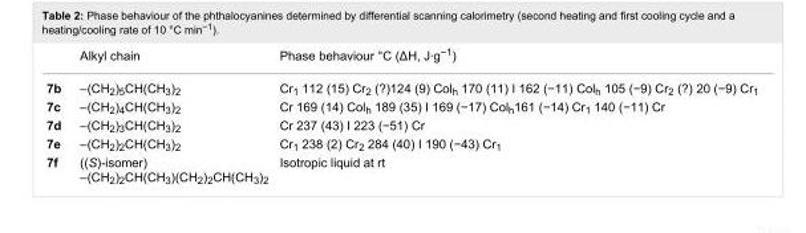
<table><thead><tr><td></td><td>Alkyl chain</td><td>Phase behaviour °C (ΔH, J·g<sup>−1</sup>)</td></tr></thead><tbody><tr><td>7b</td><td>–(CH<sub>2</sub>)<sub>5</sub>CH(CH<sub>3</sub>)<sub>2</sub></td><td>Cr<sub>1</sub> 112 (15) Cr<sub>2</sub> (?)124 (9) Col<sub>h</sub> 170 (11) I 162 (−11) Col<sub>h</sub> 105 (−9) Cr<sub>2</sub> (?) 20 (−9) Cr<sub>1</sub></td></tr><tr><td>7c</td><td>–(CH<sub>2</sub>)<sub>4</sub>CH(CH<sub>3</sub>)<sub>2</sub></td><td>Cr 169 (14) Col<sub>h</sub> 189 (35) I 169 (−17) Col<sub>h</sub>161 (−14) Cr<sub>1</sub> 140 (−11) Cr</td></tr><tr><td>7d</td><td>–(CH<sub>2</sub>)<sub>3</sub>CH(CH<sub>3</sub>)<sub>2</sub></td><td>Cr 237 (43) I 223 (−51) Cr</td></tr><tr><td>7e</td><td>–(CH<sub>2</sub>)<sub>2</sub>CH(CH<sub>3</sub>)<sub>2</sub></td><td>Cr<sub>1</sub> 238 (2) Cr<sub>2</sub> 284 (40) I 190 (−43) Cr<sub>1</sub></td></tr><tr><td>7f</td><td>((S)-isomer) –(CH<sub>2</sub>)<sub>2</sub>CH(CH<sub>3</sub>)(CH<sub>2</sub>)<sub>2</sub>CH(CH<sub>3</sub>)<sub>2</sub></td><td>Isotropic liquid at rt</td></tr></tbody></table>